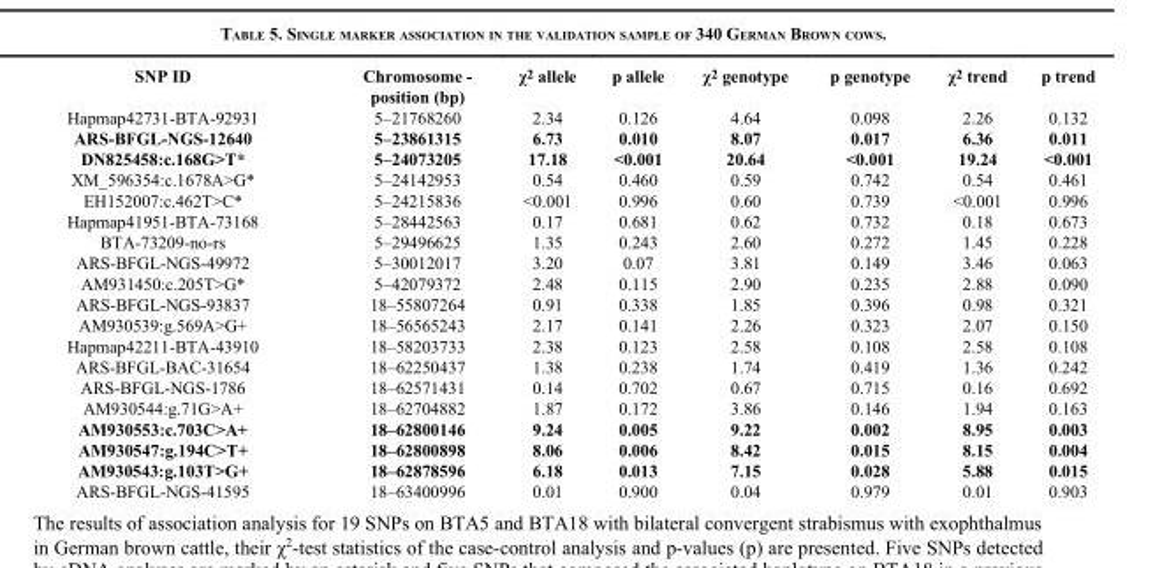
<table><thead><tr><td>SNP ID</td><td>Chromosome - position (bp)</td><td>χ<sup>2</sup> allele</td><td>p allele</td><td>χ<sup>2</sup> genotype</td><td>p genotype</td><td>χ<sup>2</sup> trend</td><td>p trend</td></tr></thead><tbody><tr><td>Hapmap42731-BTA-92931</td><td>5–21768260</td><td>2.34</td><td>0.126</td><td>4.64</td><td>0.098</td><td>2.26</td><td>0.132</td></tr><tr><td>ARS-BFGL-NGS-12640</td><td>5–23861315</td><td>6.73</td><td>0.010</td><td>8.07</td><td>0.017</td><td>6.36</td><td>0.011</td></tr><tr><td>DN825458:c.168G&gt;T*</td><td>5–24073205</td><td>17.18</td><td>&lt;0.001</td><td>20.64</td><td>&lt;0.001</td><td>19.24</td><td>&lt;0.001</td></tr><tr><td>XM_596354:c.1678A&gt;G*</td><td>5–24142953</td><td>0.54</td><td>0.460</td><td>0.59</td><td>0.742</td><td>0.54</td><td>0.461</td></tr><tr><td>EH152007:c.462T&gt;C*</td><td>5–24215836</td><td>&lt;0.001</td><td>0.996</td><td>0.60</td><td>0.739</td><td>&lt;0.001</td><td>0.996</td></tr><tr><td>Hapmap41951-BTA-73168</td><td>5–28442563</td><td>0.17</td><td>0.681</td><td>0.62</td><td>0.732</td><td>0.18</td><td>0.673</td></tr><tr><td>BTA-73209-no-rs</td><td>5–29496625</td><td>1.35</td><td>0.243</td><td>2.60</td><td>0.272</td><td>1.45</td><td>0.228</td></tr><tr><td>ARS-BFGL-NGS-49972</td><td>5–30012017</td><td>3.20</td><td>0.07</td><td>3.81</td><td>0.149</td><td>3.46</td><td>0.063</td></tr><tr><td>AM931450:c.205T&gt;G*</td><td>5–42079372</td><td>2.48</td><td>0.115</td><td>2.90</td><td>0.235</td><td>2.88</td><td>0.090</td></tr><tr><td>ARS-BFGL-NGS-93837</td><td>18–55807264</td><td>0.91</td><td>0.338</td><td>1.85</td><td>0.396</td><td>0.98</td><td>0.321</td></tr><tr><td>AM930539:g.569A&gt;G+</td><td>18–56565243</td><td>2.17</td><td>0.141</td><td>2.26</td><td>0.323</td><td>2.07</td><td>0.150</td></tr><tr><td>Hapmap42211-BTA-43910</td><td>18–58203733</td><td>2.38</td><td>0.123</td><td>2.58</td><td>0.108</td><td>2.58</td><td>0.108</td></tr><tr><td>ARS-BFGL-BAC-31654</td><td>18–62250437</td><td>1.38</td><td>0.238</td><td>1.74</td><td>0.419</td><td>1.36</td><td>0.242</td></tr><tr><td>ARS-BFGL-NGS-1786</td><td>18–62571431</td><td>0.14</td><td>0.702</td><td>0.67</td><td>0.715</td><td>0.16</td><td>0.692</td></tr><tr><td>AM930544:g.71G&gt;A+</td><td>18–62704882</td><td>1.87</td><td>0.172</td><td>3.86</td><td>0.146</td><td>1.94</td><td>0.163</td></tr><tr><td>AM930553:c.703C&gt;A+</td><td>18–62800146</td><td>9.24</td><td>0.005</td><td>9.22</td><td>0.002</td><td>8.95</td><td>0.003</td></tr><tr><td>AM930547:g.194C&gt;T+</td><td>18–62800898</td><td>8.06</td><td>0.006</td><td>8.42</td><td>0.015</td><td>8.15</td><td>0.004</td></tr><tr><td>AM930543:g.103T&gt;G+</td><td>18–62878596</td><td>6.18</td><td>0.013</td><td>7.15</td><td>0.028</td><td>5.88</td><td>0.015</td></tr><tr><td>ARS-BFGL-NGS-41595</td><td>18–63400996</td><td>0.01</td><td>0.900</td><td>0.04</td><td>0.979</td><td>0.01</td><td>0.903</td></tr></tbody></table>